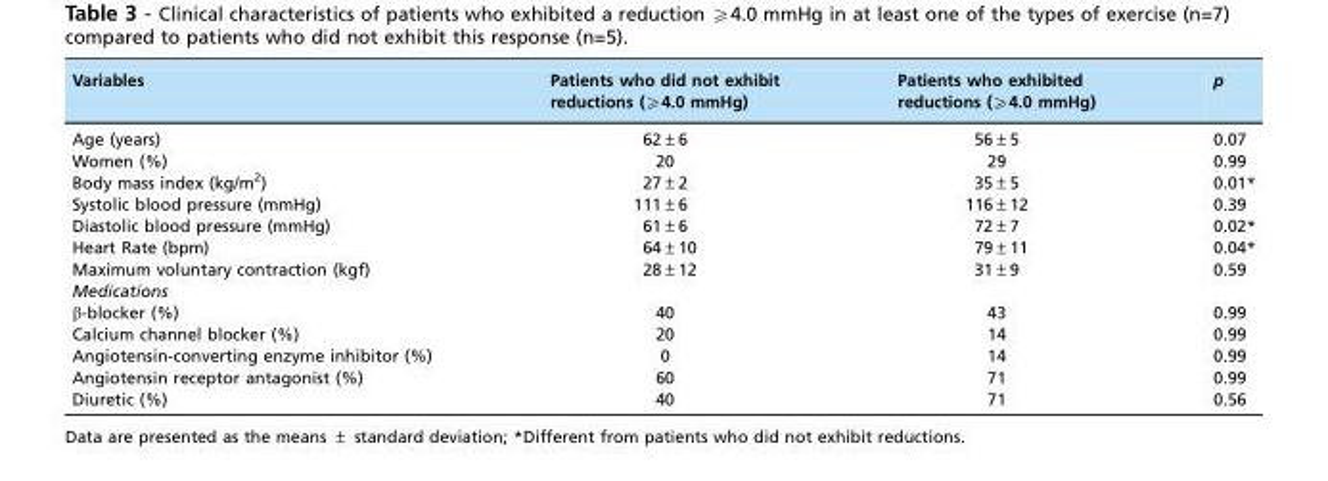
<table><thead><tr><td>Variables</td><td>Patients who did not exhibit reductions (≥4.0 mmHg)</td><td>Patients who exhibited reductions (≥4.0 mmHg)</td><td>p</td></tr></thead><tbody><tr><td>Age (years)</td><td>62±6</td><td>56±5</td><td>0.07</td></tr><tr><td>Women (%)</td><td>20</td><td>29</td><td>0.99</td></tr><tr><td>Body mass index (kg/m<sup>2</sup>)</td><td>27±2</td><td>35±5</td><td>0.01*</td></tr><tr><td>Systolic blood pressure (mmHg)</td><td>111±6</td><td>116±12</td><td>0.39</td></tr><tr><td>Diastolic blood pressure (mmHg)</td><td>61±6</td><td>72±7</td><td>0.02*</td></tr><tr><td>Heart Rate (bpm)</td><td>64±10</td><td>79±11</td><td>0.04*</td></tr><tr><td>Maximum voluntary contraction (kgf)</td><td>28±12</td><td>31±9</td><td>0.59</td></tr><tr><td colspan="4">Medications</td></tr><tr><td>β-blocker (%)</td><td>40</td><td>43</td><td>0.99</td></tr><tr><td>Calcium channel blocker (%)</td><td>20</td><td>14</td><td>0.99</td></tr><tr><td>Angiotensin-converting enzyme inhibitor (%)</td><td>0</td><td>14</td><td>0.99</td></tr><tr><td>Angiotensin receptor antagonist (%)</td><td>60</td><td>71</td><td>0.99</td></tr><tr><td>Diuretic (%)</td><td>40</td><td>71</td><td>0.56</td></tr></tbody></table>